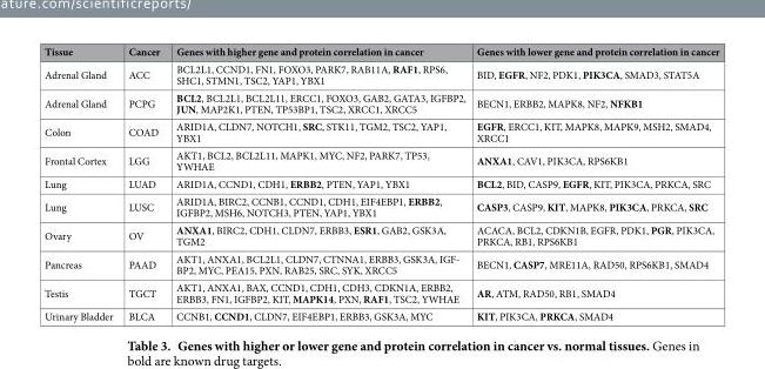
<table><thead><tr><td>Tissue</td><td>Cancer</td><td>Genes with higher gene and protein correlation in cancer</td><td>Genes with lower gene and protein correlation in cancer</td></tr></thead><tbody><tr><td>Adrenal Gland</td><td>ACC</td><td>BCL2L1, CCND1, FN1, FOXO3, PARK7, RAB11A, RAF1, RPS6, SHC1, STMN1, TSC2, YAP1, YBX1</td><td>BID, EGFR, NF2, PDK1, PIK3CA, SMAD3, STAT5A</td></tr><tr><td>Adrenal Gland</td><td>PCPG</td><td>BCL2, BCL2L1, BCL2L11, ERCC1, FOXO3, GAB2, GATA3, IGFBP2, JUN, MAP2K1, PTEN, TP53BP1, TSC2, XRCC1, XRCC5</td><td>BECN1, ERBB2, MAPK8, NF2, NFKB1</td></tr><tr><td>Colon</td><td>COAD</td><td>ARID1A, CLDN7, NOTCH1, SRC, STK11, TGM2, TSC2, YAP1, YBX1</td><td>EGFR, ERCC1, KIT, MAPK8, MAPK9, MSH2, SMAD4, XRCC1</td></tr><tr><td>Frontal Cortex</td><td>LGG</td><td>AKT1, BCL2, BCL2L11, MAPK1, MYC, NF2, PARK7, TP53, YWHAE</td><td>ANXA1, CAV1, PIK3CA, RPS6KB1</td></tr><tr><td>Lung</td><td>LUAD</td><td>ARID1A, CCND1, CDH1, ERBB2, PTEN, YAP1, YBX1</td><td>BCL2, BID, CASP9, EGFR, KIT, PIK3CA, PRKCA, SRC</td></tr><tr><td>Lung</td><td>LUSC</td><td>ARID1A, BIRC2, CCNB1, CCND1, CDH1, EIF4EBP1, ERBB2, IGFBP2, MSH6, NOTCH3, PTEN, YAP1, YBX1</td><td>CASP3, CASP9, KIT, MAPK8, PIK3CA, PRKCA, SRC</td></tr><tr><td>Ovary</td><td>OV</td><td>ANXA1, BIRC2, CDH1, CLDN7, ERBB3, ESR1, GAB2, GSK3A, TGM2</td><td>ACACA, BCL2, CDKN1B, EGFR, PDK1, PGR, PIK3CA, PRKCA, RB1, RPS6KB1</td></tr><tr><td>Pancreas</td><td>PAAD</td><td>AKT1, ANXA1, BCL2L1, CLDN7, CTNNA1, ERBB3, GSK3A, IGF- BP2, MYC, PEA15, PXN, RAB25, SRC, SYK, XRCC5</td><td>BECN1, CASP7, MRE11A, RAD50, RPS6KB1, SMAD4</td></tr><tr><td>Testis</td><td>TGCT</td><td>AKT1, ANXA1, BAX, CCND1, CDH1, CDH3, CDKN1A, ERBB2, ERBB3, FN1, IGFBP2, KIT, MAPK14, PXN, RAF1, TSC2, YWHAE</td><td>AR, ATM, RAD50, RB1, SMAD4</td></tr><tr><td>Urinary Bladder</td><td>BLCA</td><td>CCNB1, CCND1, CLDN7, EIF4EBP1, ERBB3, GSK3A, MYC</td><td>KIT, PIK3CA, PRKCA, SMAD4</td></tr></tbody></table>